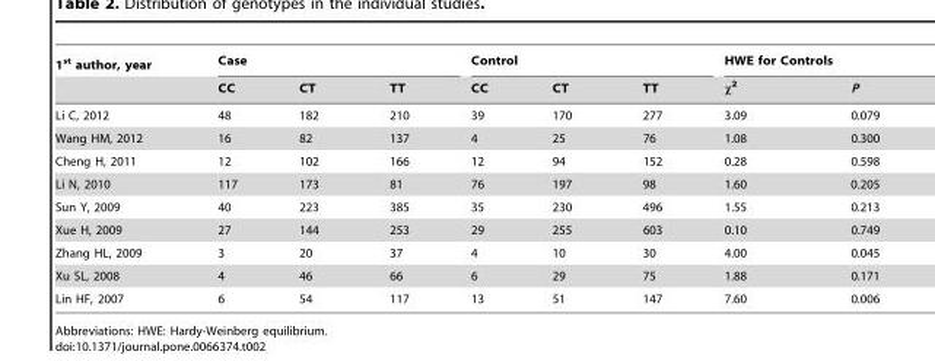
<table><thead><tr><td rowspan="2">1<sup>st</sup> author, year</td><td colspan="3">Case</td><td colspan="3">Control</td><td colspan="2">HWE for Controls</td></tr><tr><td>CC</td><td>CT</td><td>TT</td><td>CC</td><td>CT</td><td>TT</td><td>x2</td><td>P</td></tr></thead><tbody><tr><td>Li C, 2012</td><td>48</td><td>182</td><td>210</td><td>39</td><td>170</td><td>277</td><td>3.09</td><td>0.079</td></tr><tr><td>Wang HM, 2012</td><td>16</td><td>82</td><td>137</td><td>4</td><td>25</td><td>76</td><td>1.08</td><td>0.300</td></tr><tr><td>Cheng H, 2011</td><td>12</td><td>102</td><td>166</td><td>12</td><td>94</td><td>152</td><td>0.28</td><td>0.598</td></tr><tr><td>Li N, 2010</td><td>117</td><td>173</td><td>81</td><td>76</td><td>197</td><td>98</td><td>1.60</td><td>0.205</td></tr><tr><td>Sun Y, 2009</td><td>40</td><td>223</td><td>385</td><td>35</td><td>230</td><td>496</td><td>1.55</td><td>0.213</td></tr><tr><td>Xue H, 2009</td><td>27</td><td>144</td><td>253</td><td>29</td><td>255</td><td>603</td><td>0.10</td><td>0.749</td></tr><tr><td>Zhang HL, 2009</td><td>3</td><td>20</td><td>37</td><td>4</td><td>10</td><td>30</td><td>4.00</td><td>0.045</td></tr><tr><td>Xu SL, 2008</td><td>4</td><td>46</td><td>66</td><td>6</td><td>29</td><td>75</td><td>1.88</td><td>0.171</td></tr><tr><td>Lin HF, 2007</td><td>6</td><td>54</td><td>117</td><td>13</td><td>51</td><td>147</td><td>7.60</td><td>0.006</td></tr></tbody></table>